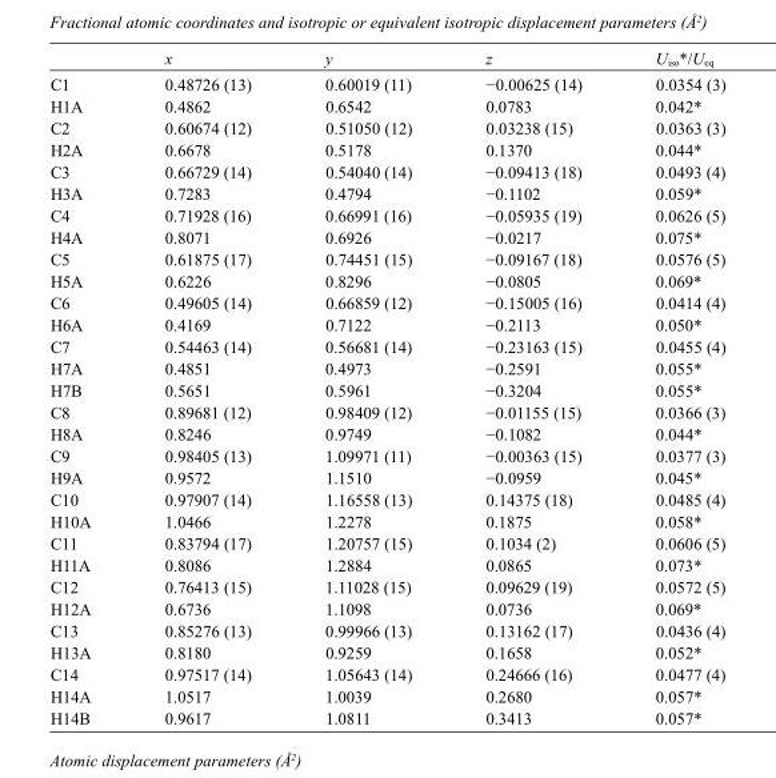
<table><thead><tr><td></td><td>x</td><td>y</td><td>z</td><td>U<sub>iso</sub>*/U<sub>eq</sub></td></tr></thead><tbody><tr><td>C1</td><td>0.48726 (13)</td><td>0.60019 (11)</td><td>−0.00625 (14)</td><td>0.0354 (3)</td></tr><tr><td>H1A</td><td>0.4862</td><td>0.6542</td><td>0.0783</td><td>0.042*</td></tr><tr><td>C2</td><td>0.60674 (12)</td><td>0.51050 (12)</td><td>0.03238 (15)</td><td>0.0363 (3)</td></tr><tr><td>H2A</td><td>0.6678</td><td>0.5178</td><td>0.1370</td><td>0.044*</td></tr><tr><td>C3</td><td>0.66729 (14)</td><td>0.54040 (14)</td><td>−0.09413 (18)</td><td>0.0493 (4)</td></tr><tr><td>H3A</td><td>0.7283</td><td>0.4794</td><td>−0.1102</td><td>0.059*</td></tr><tr><td>C4</td><td>0.71928 (16)</td><td>0.66991 (16)</td><td>−0.05935 (19)</td><td>0.0626 (5)</td></tr><tr><td>H4A</td><td>0.8071</td><td>0.6926</td><td>−0.0217</td><td>0.075*</td></tr><tr><td>C5</td><td>0.61875 (17)</td><td>0.74451 (15)</td><td>−0.09167 (18)</td><td>0.0576 (5)</td></tr><tr><td>H5A</td><td>0.6226</td><td>0.8296</td><td>−0.0805</td><td>0.069*</td></tr><tr><td>C6</td><td>0.49605 (14)</td><td>0.66859 (12)</td><td>−0.15005 (16)</td><td>0.0414 (4)</td></tr><tr><td>H6A</td><td>0.4169</td><td>0.7122</td><td>−0.2113</td><td>0.050*</td></tr><tr><td>C7</td><td>0.54463 (14)</td><td>0.56681 (14)</td><td>−0.23163 (15)</td><td>0.0455 (4)</td></tr><tr><td>H7A</td><td>0.4851</td><td>0.4973</td><td>−0.2591</td><td>0.055*</td></tr><tr><td>H7B</td><td>0.5651</td><td>0.5961</td><td>−0.3204</td><td>0.055*</td></tr><tr><td>C8</td><td>0.89681 (12)</td><td>0.98409 (12)</td><td>−0.01155 (15)</td><td>0.0366 (3)</td></tr><tr><td>H8A</td><td>0.8246</td><td>0.9749</td><td>−0.1082</td><td>0.044*</td></tr><tr><td>C9</td><td>0.98405 (13)</td><td>1.09971 (11)</td><td>−0.00363 (15)</td><td>0.0377 (3)</td></tr><tr><td>H9A</td><td>0.9572</td><td>1.1510</td><td>−0.0959</td><td>0.045*</td></tr><tr><td>C10</td><td>0.97907 (14)</td><td>1.16558 (13)</td><td>0.14375 (18)</td><td>0.0485 (4)</td></tr><tr><td>H10A</td><td>1.0466</td><td>1.2278</td><td>0.1875</td><td>0.058*</td></tr><tr><td>C11</td><td>0.83794 (17)</td><td>1.20757 (15)</td><td>0.1034 (2)</td><td>0.0606 (5)</td></tr><tr><td>H11A</td><td>0.8086</td><td>1.2884</td><td>0.0865</td><td>0.073*</td></tr><tr><td>C12</td><td>0.76413 (15)</td><td>1.11028 (15)</td><td>0.09629 (19)</td><td>0.0572 (5)</td></tr><tr><td>H12A</td><td>0.6736</td><td>1.1098</td><td>0.0736</td><td>0.069*</td></tr><tr><td>C13</td><td>0.85276 (13)</td><td>0.99966 (13)</td><td>0.13162 (17)</td><td>0.0436 (4)</td></tr><tr><td>H13A</td><td>0.8180</td><td>0.9259</td><td>0.1658</td><td>0.052*</td></tr><tr><td>C14</td><td>0.97517 (14)</td><td>1.05643 (14)</td><td>0.24666 (16)</td><td>0.0477 (4)</td></tr><tr><td>H14A</td><td>1.0517</td><td>1.0039</td><td>0.2680</td><td>0.057*</td></tr><tr><td>H14B</td><td>0.9617</td><td>1.0811</td><td>0.3413</td><td>0.057*</td></tr></tbody></table>